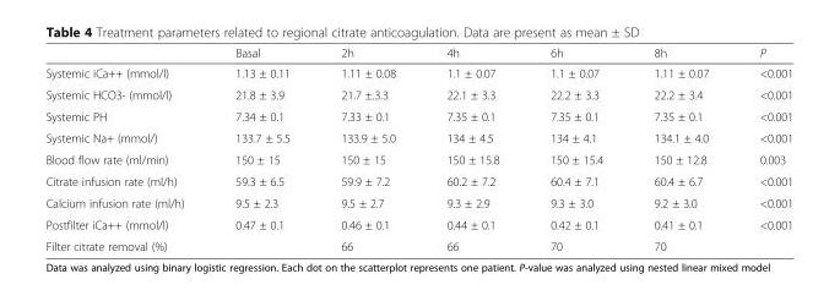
<table><thead><tr><td></td><td>Basal</td><td>2h</td><td>4h</td><td>6h</td><td>8h</td><td>P</td></tr></thead><tbody><tr><td>Systemic iCa++ (mmol/l)</td><td>1.13 ± 0.11</td><td>1.11 ± 0.08</td><td>1.1 ± 0.07</td><td>1.1 ± 0.07</td><td>1.11 ± 0.07</td><td>&lt;0.001</td></tr><tr><td>Systemic HCO3- (mmol/l)</td><td>21.8 ± 3.9</td><td>21.7 ±.3.3</td><td>22.1 ± 3.3</td><td>22.2 ± 3.3</td><td>22.2 ± 3.4</td><td>&lt;0.001</td></tr><tr><td>Systemic PH</td><td>7.34 ± 0.1</td><td>7.33 ± 0.1</td><td>7.35 ± 0.1</td><td>7.35 ± 0.1</td><td>7.35 ± 0.1</td><td>&lt;0.001</td></tr><tr><td>Systemic Na+ (mmol/)</td><td>133.7 ± 5.5</td><td>133.9 ± 5.0</td><td>134 ± 4.5</td><td>134 ± 4.1</td><td>134.1 ± 4.0</td><td>&lt;0.001</td></tr><tr><td>Blood flow rate (ml/min)</td><td>150 ± 15</td><td>150 ± 15</td><td>150 ± 15.8</td><td>150 ± 15.4</td><td>150 ± 12.8</td><td>0.003</td></tr><tr><td>Citrate infusion rate (ml/h)</td><td>59.3 ± 6.5</td><td>59.9 ± 7.2</td><td>60.2 ± 7.2</td><td>60.4 ± 7.1</td><td>60.4 ± 6.7</td><td>&lt;0.001</td></tr><tr><td>Calcium infusion rate (ml/h)</td><td>9.5 ± 2.3</td><td>9.5 ± 2.7</td><td>9.3 ± 2.9</td><td>9.3 ± 3.0</td><td>9.2 ± 3.0</td><td>&lt;0.001</td></tr><tr><td>Postfilter iCa++ (mmol/l)</td><td>0.47 ± 0.1</td><td>0.46 ± 0.1</td><td>0.44 ± 0.1</td><td>0.42 ± 0.1</td><td>0.41 ± 0.1</td><td>&lt;0.001</td></tr><tr><td>Filter citrate removal (%)</td><td></td><td>66</td><td>66</td><td>70</td><td>70</td><td></td></tr></tbody></table>